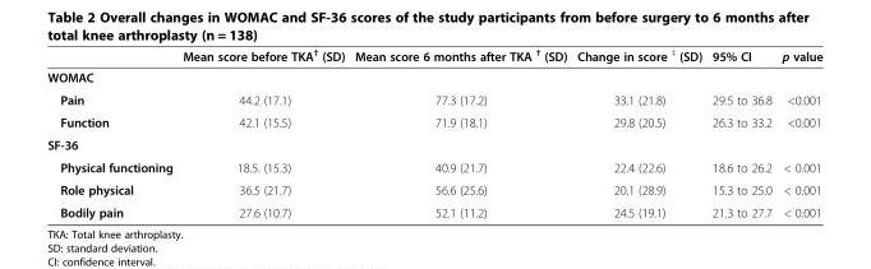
<table><thead><tr><td></td><td>Mean score before TKA<sup>†</sup> (SD)</td><td>Mean score 6 months after TKA <sup>†</sup> (SD)</td><td>Change in score <sup>‡</sup> (SD)</td><td>95% CI</td><td>p value</td></tr></thead><tbody><tr><td colspan="6">WOMAC</td></tr><tr><td>Pain</td><td>44.2 (17.1)</td><td>77.3 (17.2)</td><td>33.1 (21.8)</td><td>29.5 to 36.8</td><td>&lt;0.001</td></tr><tr><td>Function</td><td>42.1 (15.5)</td><td>71.9 (18.1)</td><td>29.8 (20.5)</td><td>26.3 to 33.2</td><td>&lt;0.001</td></tr><tr><td colspan="6">SF-36</td></tr><tr><td>Physical functioning</td><td>18.5. (15.3)</td><td>40.9 (21.7)</td><td>22.4 (22.6)</td><td>18.6 to 26.2</td><td>&lt; 0.001</td></tr><tr><td>Role physical</td><td>36.5 (21.7)</td><td>56.6 (25.6)</td><td>20.1 (28.9)</td><td>15.3 to 25.0</td><td>&lt; 0.001</td></tr><tr><td>Bodily pain</td><td>27.6 (10.7)</td><td>52.1 (11.2)</td><td>24.5 (19.1)</td><td>21.3 to 27.7</td><td>&lt; 0.001</td></tr></tbody></table>